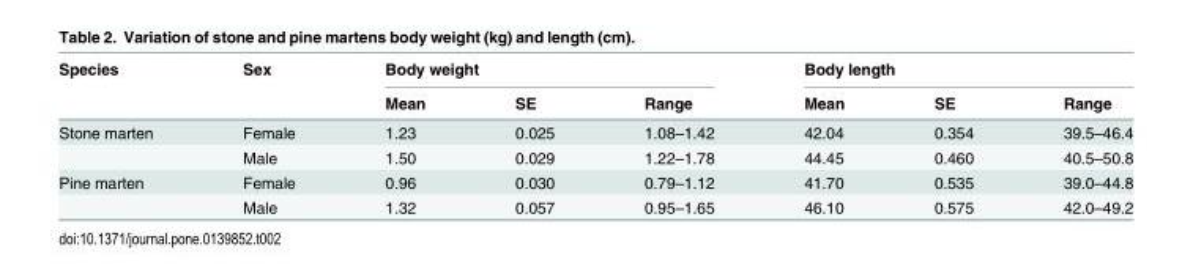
<table><thead><tr><td rowspan="2">Species</td><td rowspan="2">Sex</td><td colspan="3">Body weight</td><td colspan="3">Body length</td></tr><tr><td>Mean</td><td>SE</td><td>Range</td><td>Mean</td><td>SE</td><td>Range</td></tr></thead><tbody><tr><td rowspan="2">Stone marten</td><td>Female</td><td>1.23</td><td>0.025</td><td>1.08–1.42</td><td>42.04</td><td>0.354</td><td>39.5–46.4</td></tr><tr><td>Male</td><td>1.50</td><td>0.029</td><td>1.22–1.78</td><td>44.45</td><td>0.460</td><td>40.5–50.8</td></tr><tr><td rowspan="2">Pine marten</td><td>Female</td><td>0.96</td><td>0.030</td><td>0.79–1.12</td><td>41.70</td><td>0.535</td><td>39.0–44.8</td></tr><tr><td>Male</td><td>1.32</td><td>0.057</td><td>0.95–1.65</td><td>46.10</td><td>0.575</td><td>42.0–49.2</td></tr></tbody></table>